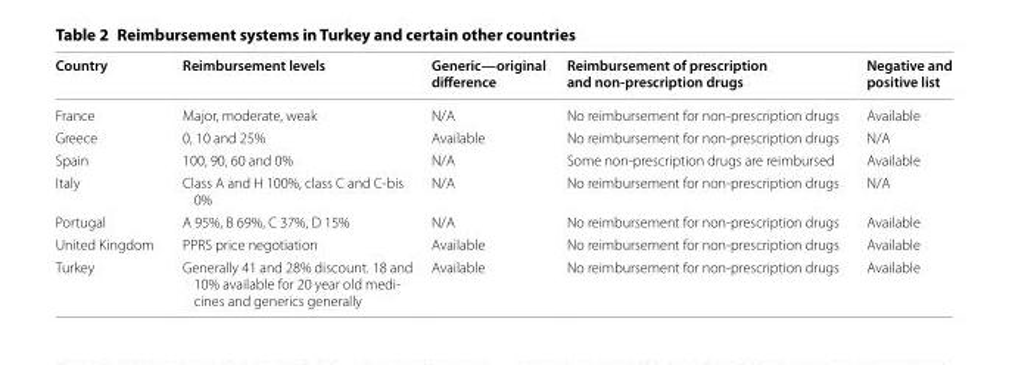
<table><thead><tr><td>Country</td><td>Reimbursement levels</td><td>Generic—original difference</td><td>Reimbursement of prescription and non-prescription drugs</td><td>Negative and positive list</td></tr></thead><tbody><tr><td>France</td><td>Major, moderate, weak</td><td>N/A</td><td>No reimbursement for non-prescription drugs</td><td>Available</td></tr><tr><td>Greece</td><td>0, 10 and 25%</td><td>Available</td><td>No reimbursement for non-prescription drugs</td><td>N/A</td></tr><tr><td>Spain</td><td>100, 90, 60 and 0%</td><td>N/A</td><td>Some non-prescription drugs are reimbursed</td><td>Available</td></tr><tr><td>Italy</td><td>Class A and H 100%, class C and C-bis 0%</td><td>N/A</td><td>No reimbursement for non-prescription drugs</td><td>N/A</td></tr><tr><td>Portugal</td><td>A 95%, B 69%, C 37%, D 15%</td><td>N/A</td><td>No reimbursement for non-prescription drugs</td><td>Available</td></tr><tr><td>United Kingdom</td><td>PPRS price negotiation</td><td>Available</td><td>No reimbursement for non-prescription drugs</td><td>Available</td></tr><tr><td>Turkey</td><td>Generally 41 and 28% discount. 18 and 10% available for 20 year old medi- cines and generics generally</td><td>Available</td><td>No reimbursement for non-prescription drugs</td><td>Available</td></tr></tbody></table>